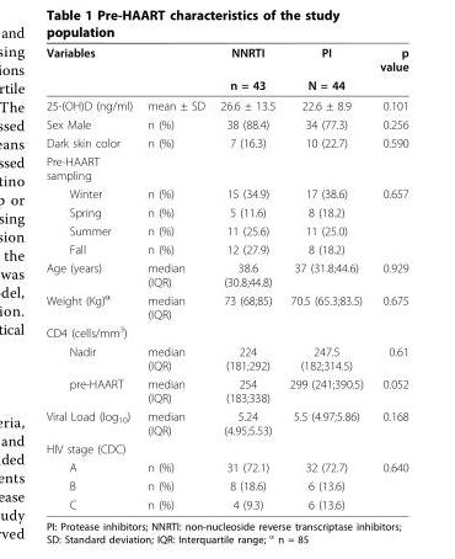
<table><thead><tr><td rowspan="2">Variables</td><td rowspan="2"></td><td rowspan="2">NNRTI n = 43</td><td rowspan="2">PI N = 44</td><td rowspan="2">p value</td></tr><tr></tr></thead><tbody><tr><td>25-(OH)D (ng/ml)</td><td>mean ± SD</td><td>26.6 ± 13.5</td><td>22.6 ± 8.9</td><td>0.101</td></tr><tr><td>Sex Male</td><td>n (%)</td><td>38 (88.4)</td><td>34 (77.3)</td><td>0.256</td></tr><tr><td>Dark skin color</td><td>n (%)</td><td>7 (16.3)</td><td>10 (22.7)</td><td>0.590</td></tr><tr><td colspan="5">Pre-HAART sampling</td></tr><tr><td>Winter</td><td>n (%)</td><td>15 (34.9)</td><td>17 (38.6)</td><td>0.657</td></tr><tr><td>Spring</td><td>n (%)</td><td>5 (11.6)</td><td>8 (18.2)</td><td></td></tr><tr><td>Summer</td><td>n (%)</td><td>11 (25.6)</td><td>11 (25.0)</td><td></td></tr><tr><td>Fall</td><td>n (%)</td><td>12 (27.9)</td><td>8 (18.2)</td><td></td></tr><tr><td>Age (years)</td><td>median (IQR)</td><td>38.6 (30.8;44.8)</td><td>37 (31.8;44.6)</td><td>0.929</td></tr><tr><td>Weight (Kg)<sup>α</sup></td><td>median (IQR)</td><td>73 (68;85)</td><td>70.5 (65.3;83.5)</td><td>0.675</td></tr><tr><td colspan="5">CD4 (cells/mm<sup>3</sup>)</td></tr><tr><td>Nadir</td><td>median (IQR)</td><td>224 (181;292)</td><td>247.5 (182;314.5)</td><td>0.61</td></tr><tr><td>pre-HAART</td><td>median (IQR)</td><td>254 (183;338)</td><td>299 (241;390.5)</td><td>0.052</td></tr><tr><td>Viral Load (log<sub>10</sub>)</td><td>median (IQR)</td><td>5.24 (4.95;5.53)</td><td>5.5 (4.97;5.86)</td><td>0.168</td></tr><tr><td colspan="5">HIV stage (CDC)</td></tr><tr><td>A</td><td>n (%)</td><td>31 (72.1)</td><td>32 (72.7)</td><td>0.640</td></tr><tr><td>B</td><td>n (%)</td><td>8 (18.6)</td><td>6 (13.6)</td><td></td></tr><tr><td>C</td><td>n (%)</td><td>4 (9.3)</td><td>6 (13.6)</td><td></td></tr></tbody></table>